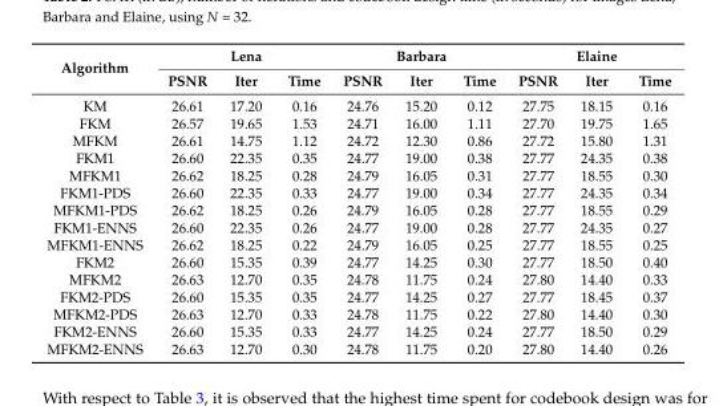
<table><thead><tr><td rowspan="2">Algorithm</td><td colspan="3">Lena</td><td colspan="3">Barbara</td><td colspan="3">Elaine</td></tr><tr><td>PSNR</td><td>Iter</td><td>Time</td><td>PSNR</td><td>Iter</td><td>Time</td><td>PSNR</td><td>Iter</td><td>Time</td></tr></thead><tbody><tr><td>KM</td><td>26.61</td><td>17.20</td><td>0.16</td><td>24.76</td><td>15.20</td><td>0.12</td><td>27.75</td><td>18.15</td><td>0.16</td></tr><tr><td>FKM</td><td>26.57</td><td>19.65</td><td>1.53</td><td>24.71</td><td>16.00</td><td>1.11</td><td>27.70</td><td>19.75</td><td>1.65</td></tr><tr><td>MFKM</td><td>26.61</td><td>14.75</td><td>1.12</td><td>24.72</td><td>12.30</td><td>0.86</td><td>27.72</td><td>15.80</td><td>1.31</td></tr><tr><td>FKM1</td><td>26.60</td><td>22.35</td><td>0.35</td><td>24.77</td><td>19.00</td><td>0.38</td><td>27.77</td><td>24.35</td><td>0.38</td></tr><tr><td>MFKM1</td><td>26.62</td><td>18.25</td><td>0.28</td><td>24.79</td><td>16.05</td><td>0.31</td><td>27.77</td><td>18.55</td><td>0.30</td></tr><tr><td>FKM1-PDS</td><td>26.60</td><td>22.35</td><td>0.33</td><td>24.77</td><td>19.00</td><td>0.34</td><td>27.77</td><td>24.35</td><td>0.34</td></tr><tr><td>MFKM1-PDS</td><td>26.62</td><td>18.25</td><td>0.26</td><td>24.79</td><td>16.05</td><td>0.28</td><td>27.77</td><td>18.55</td><td>0.29</td></tr><tr><td>FKM1-ENNS</td><td>26.60</td><td>22.35</td><td>0.26</td><td>24.77</td><td>19.00</td><td>0.28</td><td>27.77</td><td>24.35</td><td>0.27</td></tr><tr><td>MFKM1-ENNS</td><td>26.62</td><td>18.25</td><td>0.22</td><td>24.79</td><td>16.05</td><td>0.25</td><td>27.77</td><td>18.55</td><td>0.25</td></tr><tr><td>FKM2</td><td>26.60</td><td>15.35</td><td>0.39</td><td>24.77</td><td>14.25</td><td>0.30</td><td>27.77</td><td>18.50</td><td>0.40</td></tr><tr><td>MFKM2</td><td>26.63</td><td>12.70</td><td>0.35</td><td>24.78</td><td>11.75</td><td>0.24</td><td>27.80</td><td>14.40</td><td>0.33</td></tr><tr><td>FKM2-PDS</td><td>26.60</td><td>15.35</td><td>0.35</td><td>24.77</td><td>14.25</td><td>0.27</td><td>27.77</td><td>18.45</td><td>0.37</td></tr><tr><td>MFKM2-PDS</td><td>26.63</td><td>12.70</td><td>0.33</td><td>24.78</td><td>11.75</td><td>0.22</td><td>27.80</td><td>14.40</td><td>0.30</td></tr><tr><td>FKM2-ENNS</td><td>26.60</td><td>15.35</td><td>0.33</td><td>24.77</td><td>14.25</td><td>0.24</td><td>27.77</td><td>18.50</td><td>0.29</td></tr><tr><td>MFKM2-ENNS</td><td>26.63</td><td>12.70</td><td>0.30</td><td>24.78</td><td>11.75</td><td>0.20</td><td>27.80</td><td>14.40</td><td>0.26</td></tr></tbody></table>